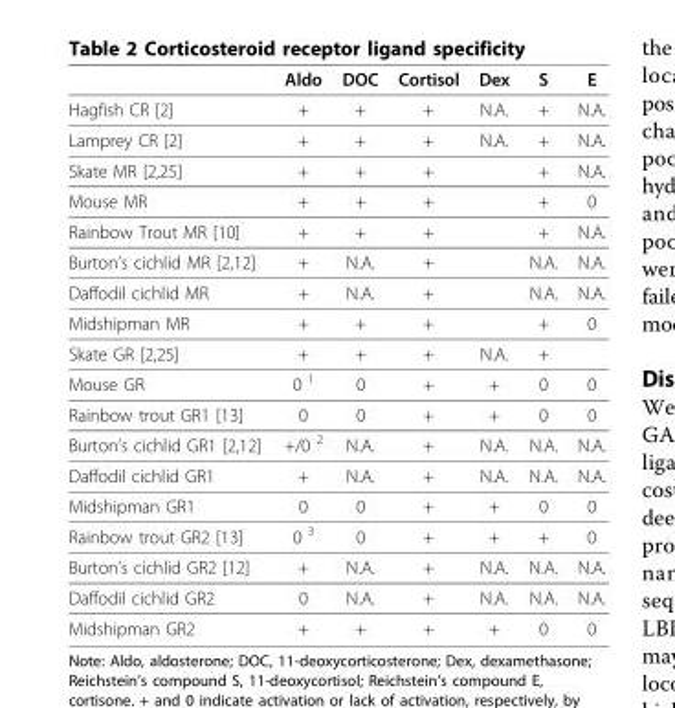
<table><thead><tr><td></td><td>Aldo</td><td>DOC</td><td>Cortisol</td><td>Dex</td><td>S</td><td>E</td></tr></thead><tbody><tr><td>Hagfish CR [2]</td><td>+</td><td>+</td><td>+</td><td>N.A.</td><td>+</td><td>N.A.</td></tr><tr><td>Lamprey CR [2]</td><td>+</td><td>+</td><td>+</td><td>N.A.</td><td>+</td><td>N.A.</td></tr><tr><td>Skate MR [2,25]</td><td>+</td><td>+</td><td>+</td><td></td><td>+</td><td>N.A.</td></tr><tr><td>Mouse MR</td><td>+</td><td>+</td><td>+</td><td></td><td>+</td><td>0</td></tr><tr><td>Rainbow Trout MR [10]</td><td>+</td><td>+</td><td>+</td><td></td><td>+</td><td>N.A.</td></tr><tr><td>Burton’s cichlid MR [2,12]</td><td>+</td><td>N.A.</td><td>+</td><td></td><td>N.A.</td><td>N.A.</td></tr><tr><td>Daffodil cichlid MR</td><td>+</td><td>N.A.</td><td>+</td><td></td><td>N.A.</td><td>N.A.</td></tr><tr><td>Midshipman MR</td><td>+</td><td>+</td><td>+</td><td></td><td>+</td><td>0</td></tr><tr><td>Skate GR [2,25]</td><td>+</td><td>+</td><td>+</td><td>N.A.</td><td>+</td><td></td></tr><tr><td>Mouse GR</td><td>0 <sup>1</sup></td><td>0</td><td>+</td><td>+</td><td>0</td><td>0</td></tr><tr><td>Rainbow trout GR1 [13]</td><td>0</td><td>0</td><td>+</td><td>+</td><td>0</td><td>0</td></tr><tr><td>Burton’s cichlid GR1 [2,12]</td><td>+/0 <sup>2</sup></td><td>N.A.</td><td>+</td><td>N.A.</td><td>N.A.</td><td>N.A.</td></tr><tr><td>Daffodil cichlid GR1</td><td>+</td><td>N.A.</td><td>+</td><td>N.A.</td><td>N.A.</td><td>N.A.</td></tr><tr><td>Midshipman GR1</td><td>0</td><td>0</td><td>+</td><td>+</td><td>0</td><td>0</td></tr><tr><td>Rainbow trout GR2 [13]</td><td>0 <sup>3</sup></td><td>0</td><td>+</td><td>+</td><td>+</td><td>0</td></tr><tr><td>Burton’s cichlid GR2 [12]</td><td>+</td><td>N.A.</td><td>+</td><td>N.A.</td><td>N.A.</td><td>N.A.</td></tr><tr><td>Daffodil cichlid GR2</td><td>0</td><td>N.A.</td><td>+</td><td>N.A.</td><td>N.A.</td><td>N.A.</td></tr><tr><td>Midshipman GR2</td><td>+</td><td>+</td><td>+</td><td>+</td><td>0</td><td>0</td></tr></tbody></table>